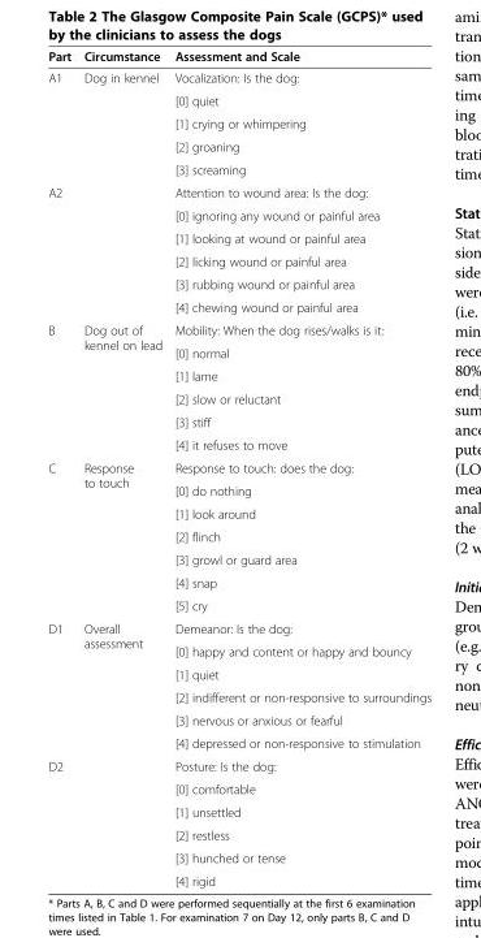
<table><thead><tr><td>Part</td><td>Circumstance</td><td>Assessment and Scale</td></tr></thead><tbody><tr><td rowspan="5">A1</td><td rowspan="5">Dog in kennel</td><td>Vocalization: Is the dog:</td></tr><tr><td>[0] quiet</td></tr><tr><td>[1] crying or whimpering</td></tr><tr><td>[2] groaning</td></tr><tr><td>[3] screaming</td></tr><tr><td rowspan="6">A2</td><td rowspan="6"></td><td>Attention to wound area: Is the dog:</td></tr><tr><td>[0] ignoring any wound or painful area</td></tr><tr><td>[1] looking at wound or painful area</td></tr><tr><td>[2] licking wound or painful area</td></tr><tr><td>[3] rubbing wound or painful area</td></tr><tr><td>[4] chewing wound or painful area</td></tr><tr><td rowspan="6">B</td><td rowspan="6">Dog out of kennel on lead</td><td>Mobility: When the dog rises/walks is it:</td></tr><tr><td>[0] normal</td></tr><tr><td>[1] lame</td></tr><tr><td>[2] slow or reluctant</td></tr><tr><td>[3] stiff</td></tr><tr><td>[4] it refuses to move</td></tr><tr><td rowspan="7">C</td><td rowspan="7">Response to touch</td><td>Response to touch: does the dog:</td></tr><tr><td>[0] do nothing</td></tr><tr><td>[1] look around</td></tr><tr><td>[2] flinch</td></tr><tr><td>[3] growl or guard area</td></tr><tr><td>[4] snap</td></tr><tr><td>[5] cry</td></tr><tr><td rowspan="6">D1</td><td rowspan="6">Overall assessment</td><td>Demeanor: Is the dog:</td></tr><tr><td>[0] happy and content or happy and bouncy</td></tr><tr><td>[1] quiet</td></tr><tr><td>[2] indifferent or non-responsive to surroundings</td></tr><tr><td>[3] nervous or anxious or fearful</td></tr><tr><td>[4] depressed or non-responsive to stimulation</td></tr><tr><td rowspan="6">D2</td><td rowspan="5"></td><td>Posture: Is the dog:</td></tr><tr><td>[0] comfortable</td></tr><tr><td>[1] unsettled</td></tr><tr><td>[2] restless</td></tr><tr><td>[3] hunched or tense</td></tr><tr><td></td><td>[4] rigid</td></tr></tbody></table>